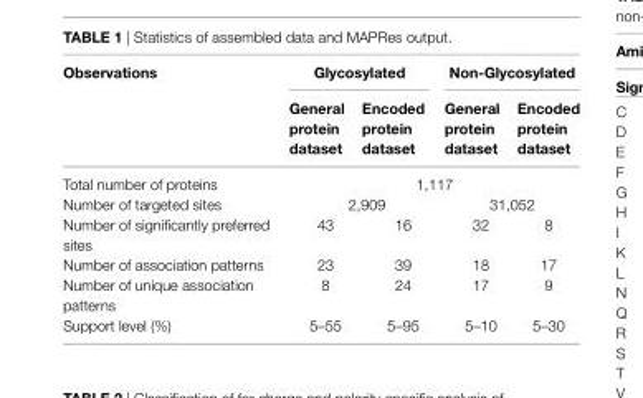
<table><thead><tr><td rowspan="2">Observations</td><td colspan="2">glycosylated</td><td colspan="2">non-glycosylated</td></tr><tr><td>general protein dataset</td><td>encoded protein dataset</td><td>general protein dataset</td><td>encoded protein dataset</td></tr></thead><tbody><tr><td>Total number of proteins</td><td colspan="4">1,117</td></tr><tr><td>Number of targeted sites</td><td colspan="2">2,909</td><td colspan="2">31,052</td></tr><tr><td>Number of significantly preferred sites</td><td>43</td><td>16</td><td>32</td><td>8</td></tr><tr><td>Number of association patterns</td><td>23</td><td>39</td><td>18</td><td>17</td></tr><tr><td>Number of unique association patterns</td><td>8</td><td>24</td><td>17</td><td>9</td></tr><tr><td>Support level (%)</td><td>5–55</td><td>5–95</td><td>5–10</td><td>5–30</td></tr></tbody></table>